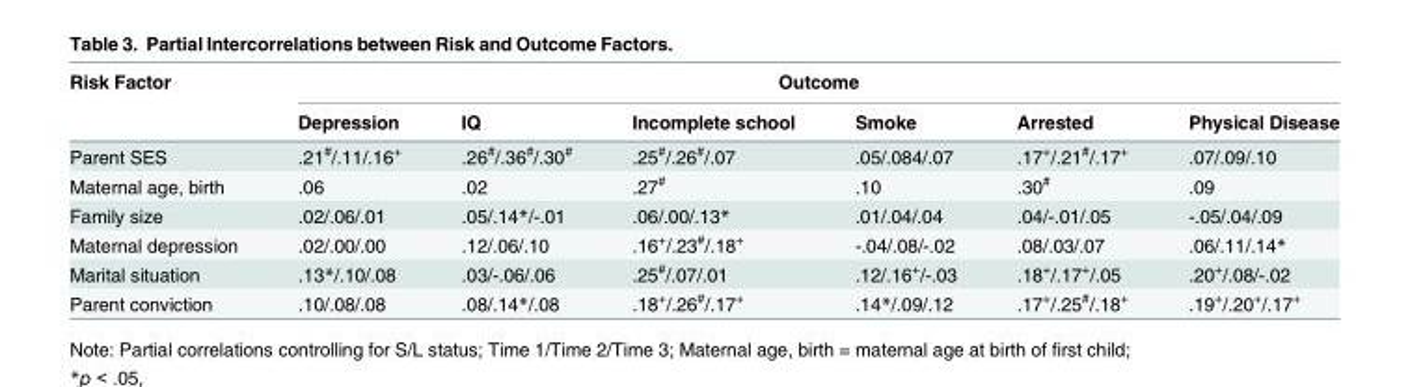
<table><thead><tr><td rowspan="2">Risk Factor</td><td colspan="6">Outcome</td></tr><tr><td>Depression</td><td>IQ</td><td>Incomplete school</td><td>Smoke</td><td>Arrested</td><td>Physical Disease</td></tr></thead><tbody><tr><td>Parent SES</td><td>.21<sup>#</sup>/.11/.16<sup>+</sup></td><td>.26<sup>#</sup>/.36<sup>#</sup>/.30<sup>#</sup></td><td>.25<sup>#</sup>/.26<sup>#</sup>/.07</td><td>.05/.084/.07</td><td>.17<sup>+</sup>/.21<sup>#</sup>/.17<sup>+</sup></td><td>.07/.09/.10</td></tr><tr><td>Maternal age, birth</td><td>.06</td><td>.02</td><td>.27<sup>#</sup></td><td>.10</td><td>.30<sup>#</sup></td><td>.09</td></tr><tr><td>Family size</td><td>.02/.06/.01</td><td>.05/.14*/-.01</td><td>.06/.00/.13*</td><td>.01/.04/.04</td><td>.04/-.01/.05</td><td>-.05/.04/.09</td></tr><tr><td>Maternal depression</td><td>.02/.00/.00</td><td>.12/.06/.10</td><td>.16<sup>+</sup>/.23<sup>#</sup>/.18<sup>+</sup></td><td>-.04/.08/-.02</td><td>.08/.03/.07</td><td>.06/.11/.14*</td></tr><tr><td>Marital situation</td><td>.13*/.10/.08</td><td>.03/-.06/.06</td><td>.25<sup>#</sup>/.07/.01</td><td>.12/.16<sup>+</sup>/-.03</td><td>.18<sup>+</sup>/.17<sup>+</sup>/.05</td><td>.20<sup>+</sup>/.08/-.02</td></tr><tr><td>Parent conviction</td><td>.10/.08/.08</td><td>.08/.14*/.08</td><td>.18<sup>+</sup>/.26<sup>#</sup>/.17<sup>+</sup></td><td>.14*/.09/.12</td><td>.17<sup>+</sup>/.25<sup>#</sup>/.18<sup>+</sup></td><td>.19<sup>+</sup>/.20<sup>+</sup>/.17<sup>+</sup></td></tr></tbody></table>